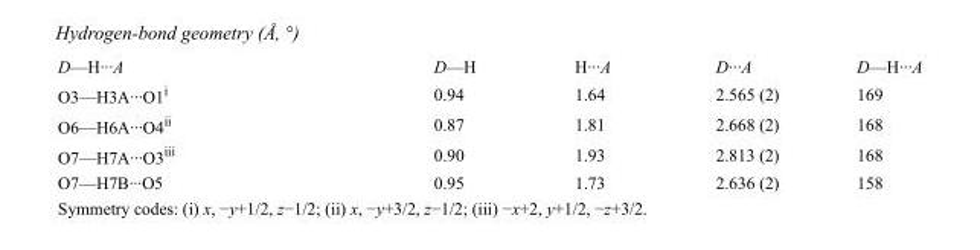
<table><tbody><tr><td>D—H···A</td><td>D—H</td><td>H···A</td><td>D···A</td><td>D—H···A</td></tr><tr><td>O3—H3A···O1<sup>i</sup></td><td>0.94</td><td>1.64</td><td>2.565 (2)</td><td>169</td></tr><tr><td>O6—H6A···O4<sup>ii</sup></td><td>0.87</td><td>1.81</td><td>2.668 (2)</td><td>168</td></tr><tr><td>O7—H7A···O3<sup>iii</sup></td><td>0.90</td><td>1.93</td><td>2.813 (2)</td><td>168</td></tr><tr><td>O7—H7B···O5</td><td>0.95</td><td>1.73</td><td>2.636 (2)</td><td>158</td></tr></tbody></table>